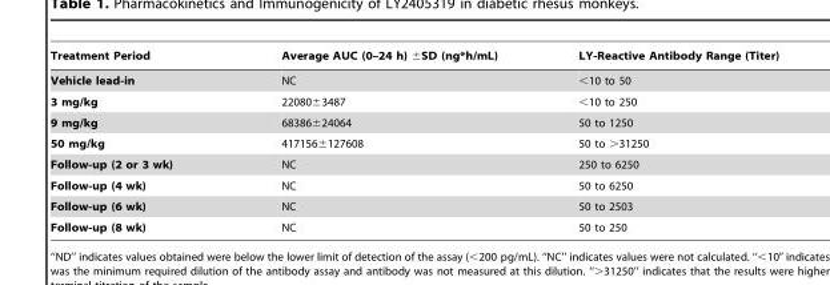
<table><thead><tr><td>Treatment Period</td><td>Average AUC (0–24 h) ±SD (ng*h/mL)</td><td>LY-Reactive Antibody Range (Titer)</td></tr></thead><tbody><tr><td>Vehicle lead-in</td><td>NC</td><td>&lt;10 to 50</td></tr><tr><td>3 mg/kg</td><td>22080±3487</td><td>&lt;10 to 250</td></tr><tr><td>9 mg/kg</td><td>68386±24064</td><td>50 to 1250</td></tr><tr><td>50 mg/kg</td><td>417156±127608</td><td>50 to &gt;31250</td></tr><tr><td>Follow-up (2 or 3 wk)</td><td>NC</td><td>250 to 6250</td></tr><tr><td>Follow-up (4 wk)</td><td>NC</td><td>50 to 6250</td></tr><tr><td>Follow-up (6 wk)</td><td>NC</td><td>50 to 2503</td></tr><tr><td>Follow-up (8 wk)</td><td>NC</td><td>50 to 250</td></tr></tbody></table>